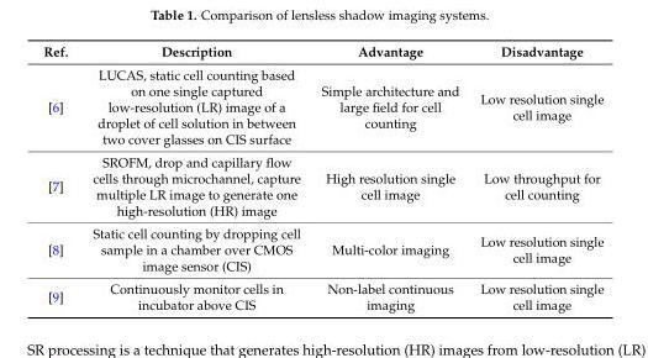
<table><thead><tr><td>Ref.</td><td>Description</td><td>Advantage</td><td>Disadvantage</td></tr></thead><tbody><tr><td>[6]</td><td>LUCAS, static cell counting based on one single captured low-resolution (LR) image of a droplet of cell solution in between two cover glasses on CIS surface</td><td>Simple architecture and large field for cell counting</td><td>Low resolution single cell image</td></tr><tr><td>[7]</td><td>SROFM, drop and capillary flow cells through microchannel, capture multiple LR image to generate one high-resolution (HR) image</td><td>High resolution single cell image</td><td>Low throughput for cell counting</td></tr><tr><td>[8]</td><td>Static cell counting by dropping cell sample in a chamber over CMOS image sensor (CIS)</td><td>Multi-color imaging</td><td>Low resolution single cell image</td></tr><tr><td>[9]</td><td>Continuously monitor cells in incubator above CIS</td><td>Non-label continuous imaging</td><td>Low resolution single cell image</td></tr></tbody></table>